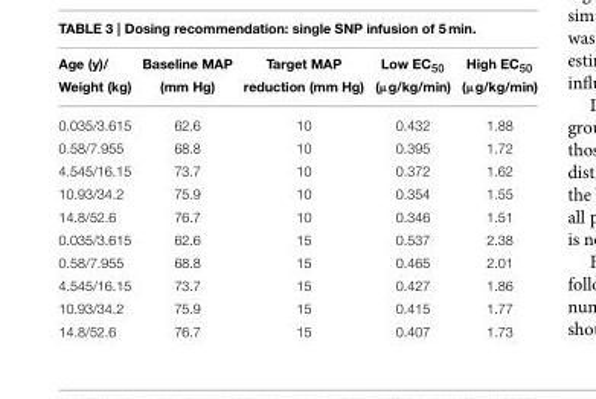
<table><thead><tr><td>Age (y)/ Weight (kg)</td><td>Baseline MAP (mm Hg)</td><td>Target MAP reduction (mm Hg)</td><td>Low EC<sub>50</sub> (µg/kg/min)</td><td>High EC<sub>50</sub> (µg/kg/min)</td></tr></thead><tbody><tr><td>0.035/3.615</td><td>62.6</td><td>10</td><td>0.432</td><td>1.88</td></tr><tr><td>0.58/7.955</td><td>68.8</td><td>10</td><td>0.395</td><td>1.72</td></tr><tr><td>4.545/16.15</td><td>73.7</td><td>10</td><td>0.372</td><td>1.62</td></tr><tr><td>10.93/34.2</td><td>75.9</td><td>10</td><td>0.354</td><td>1.55</td></tr><tr><td>14.8/52.6</td><td>76.7</td><td>10</td><td>0.346</td><td>1.51</td></tr><tr><td>0.035/3.615</td><td>62.6</td><td>15</td><td>0.537</td><td>2.38</td></tr><tr><td>0.58/7.955</td><td>68.8</td><td>15</td><td>0.465</td><td>2.01</td></tr><tr><td>4.545/16.15</td><td>73.7</td><td>15</td><td>0.427</td><td>1.86</td></tr><tr><td>10.93/34.2</td><td>75.9</td><td>15</td><td>0.415</td><td>1.77</td></tr><tr><td>14.8/52.6</td><td>76.7</td><td>15</td><td>0.407</td><td>1.73</td></tr></tbody></table>